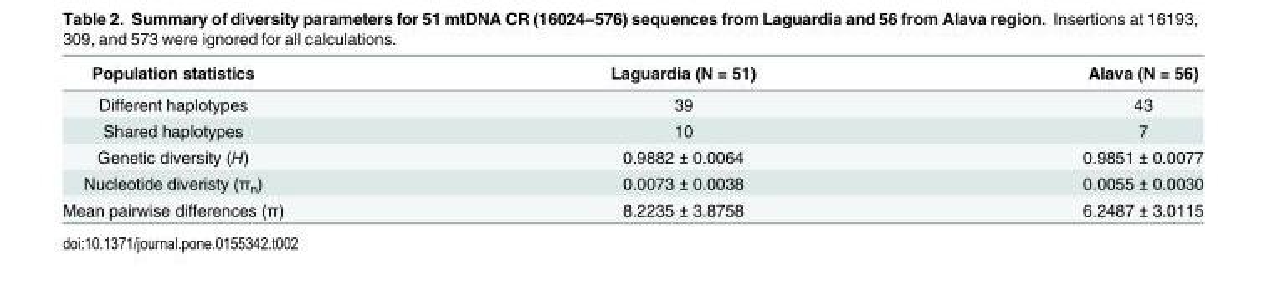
<table><thead><tr><td>Population statistics</td><td>Laguardia (N = 51)</td><td>Alava (N = 56)</td></tr></thead><tbody><tr><td>Different haplotypes</td><td>39</td><td>43</td></tr><tr><td>Shared haplotypes</td><td>10</td><td>7</td></tr><tr><td>Genetic diversity (H)</td><td>0.9882 ± 0.0064</td><td>0.9851 ± 0.0077</td></tr><tr><td>Nucleotide diveristy (π<sub>n</sub>)</td><td>0.0073 ± 0.0038</td><td>0.0055 ± 0.0030</td></tr><tr><td>Mean pairwise differences (π)</td><td>8.2235 ± 3.8758</td><td>6.2487 ± 3.0115</td></tr></tbody></table>